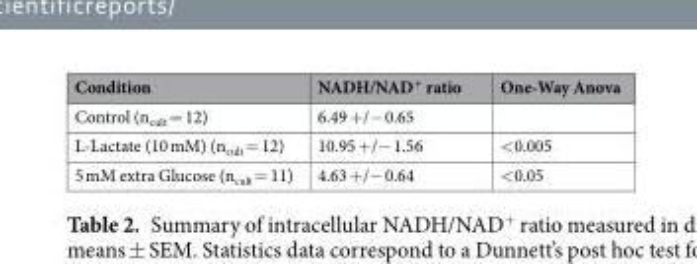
<table><thead><tr><td>Condition</td><td>NADH/NAD<sup>+</sup> ratio</td><td>One-Way Anova</td></tr></thead><tbody><tr><td>Control (n<sub>cult</sub> = 12)</td><td>6.49 +/− 0.65</td><td></td></tr><tr><td>L-Lactate (10 mM) (n<sub>cult</sub> = 12)</td><td>10.95 +/− 1.56</td><td>&lt;0.005</td></tr><tr><td>5 mM extra Glucose (n<sub>cult</sub> = 11)</td><td>4.63 +/− 0.64</td><td>&lt;0.05</td></tr></tbody></table>